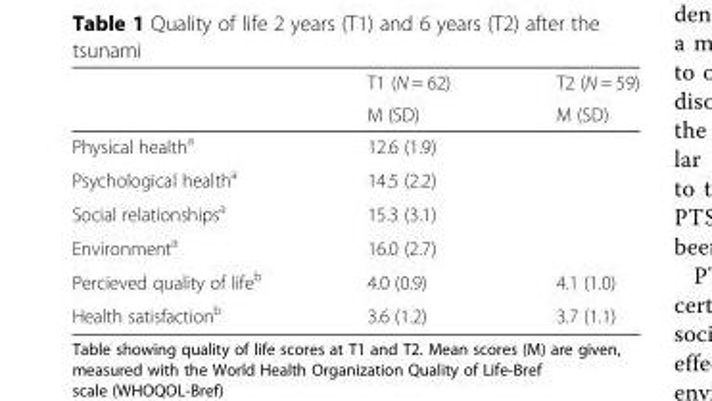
<table><thead><tr><td rowspan="2"></td><td rowspan="2">T1 (N = 62) M (SD)</td><td rowspan="2">T2 (N = 59) M (SD)</td></tr><tr></tr></thead><tbody><tr><td>Physical health<sup>a</sup></td><td>12.6 (1.9)</td><td></td></tr><tr><td>Psychological health<sup>a</sup></td><td>14.5 (2.2)</td><td></td></tr><tr><td>Social relationships<sup>a</sup></td><td>15.3 (3.1)</td><td></td></tr><tr><td>Environment<sup>a</sup></td><td>16.0 (2.7)</td><td></td></tr><tr><td>Percieved quality of life<sup>b</sup></td><td>4.0 (0.9)</td><td>4.1 (1.0)</td></tr><tr><td>Health satisfaction<sup>b</sup></td><td>3.6 (1.2)</td><td>3.7 (1.1)</td></tr></tbody></table>